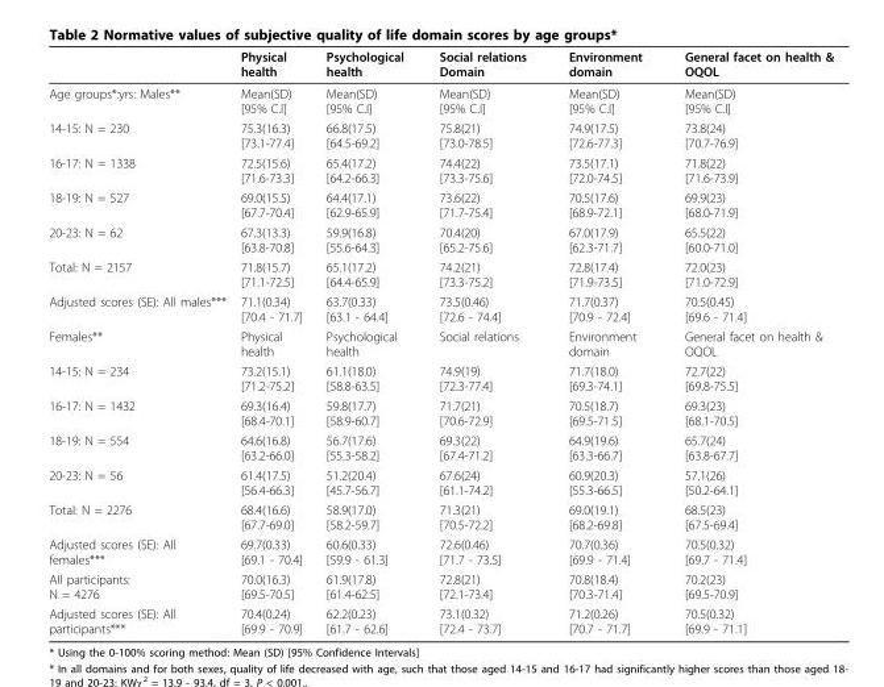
<table><thead><tr><td></td><td>Physical health</td><td>Psychological health</td><td>Social relations Domain</td><td>Environment domain</td><td>General facet on health &amp; OQOL</td></tr></thead><tbody><tr><td>Age groups*:yrs: Males**</td><td>Mean(SD) [95% C.I]</td><td>Mean(SD) [95% C.I]</td><td>Mean(SD) [95% C.I]</td><td>Mean(SD) [95% C.I]</td><td>Mean(SD) [95% C.I]</td></tr><tr><td>14-15: N = 230</td><td>75.3(16.3) [73.1-77.4]</td><td>66.8(17.5) [64.5-69.2]</td><td>75.8(21) [73.0-78.5]</td><td>74.9(17.5) [72.6-77.3]</td><td>73.8(24) [70.7-76.9]</td></tr><tr><td>16-17: N = 1338</td><td>72.5(15.6) [71.6-73.3]</td><td>65.4(17.2) [64.2-66.3]</td><td>74.4(22) [73.3-75.6]</td><td>73.5(17.1) [72.0-74.5]</td><td>71.8(22) [71.6-73.9]</td></tr><tr><td>18-19: N = 527</td><td>69.0(15.5) [67.7-70.4]</td><td>64.4(17.1) [62.9-65.9]</td><td>73.6(22) [71.7-75.4]</td><td>70.5(17.6) [68.9-72.1]</td><td>69.9(23) [68.0-71.9]</td></tr><tr><td>20-23: N = 62</td><td>67.3(13.3) [63.8-70.8]</td><td>59.9(16.8) [55.6-64.3]</td><td>70.4(20) [65.2-75.6]</td><td>67.0(17.9) [62.3-71.7]</td><td>65.5(22) [60.0-71.0]</td></tr><tr><td>Total: N = 2157</td><td>71.8(15.7) [71.1-72.5]</td><td>65.1(17.2) [64.4-65.9]</td><td>74.2(21) [73.3-75.2]</td><td>72.8(17.4) [71.9-73.5]</td><td>72.0(23) [71.0-72.9]</td></tr><tr><td>Adjusted scores (SE): All males***</td><td>71.1(0.34) [70.4 - 71.7]</td><td>63.7(0.33) [63.1 - 64.4]</td><td>73.5(0.46) [72.6 - 74.4]</td><td>71.7(0.37) [70.9 - 72.4]</td><td>70.5(0.45) [69.6 - 71.4]</td></tr><tr><td>Females**</td><td>Physical health</td><td>Psychological health</td><td>Social relations</td><td>Environment domain</td><td>General facet on health &amp; OQOL</td></tr><tr><td>14-15: N = 234</td><td>73.2(15.1) [71.2-75.2]</td><td>61.1(18.0) [58.8-63.5]</td><td>74.9(19) [72.3-77.4]</td><td>71.7(18.0) [69.3-74.1]</td><td>72.7(22) [69.8-75.5]</td></tr><tr><td>16-17: N = 1432</td><td>69.3(16.4) [68.4-70.1]</td><td>59.8(17.7) [58.9-60.7]</td><td>71.7(21) [70.6-72.9]</td><td>70.5(18.7) [69.5-71.5]</td><td>69.3(23) [68.1-70.5]</td></tr><tr><td>18-19: N = 554</td><td>64.6(16.8) [63.2-66.0]</td><td>56.7(17.6) [55.3-58.2]</td><td>69.3(22) [67.4-71.2]</td><td>64.9(19.6) [63.3-66.7]</td><td>65.7(24) [63.8-67.7]</td></tr><tr><td>20-23: N = 56</td><td>61.4(17.5) [56.4-66.3]</td><td>51.2(20.4) [45.7-56.7]</td><td>67.6(24) [61.1-74.2]</td><td>60.9(20.3) [55.3-66.5]</td><td>57.1(26) [50.2-64.1]</td></tr><tr><td>Total: N = 2276</td><td>68.4(16.6) [67.7-69.0]</td><td>58.9(17.0) [58.2-59.7]</td><td>71.3(21) [70.5-72.2]</td><td>69.0(19.1) [68.2-69.8]</td><td>68.5(23) [67.5-69.4]</td></tr><tr><td>Adjusted scores (SE): All females***</td><td>69.7(0.33) [69.1 - 70.4]</td><td>60.6(0.33) [59.9 - 61.3]</td><td>72.6(0.46) [71.7 - 73.5]</td><td>70.7(0.36) [69.9 - 71.4]</td><td>70.5(0.32) [69.7 - 71.4]</td></tr><tr><td>All participants: N = 4276</td><td>70.0(16.3) [69.5-70.5]</td><td>61.9(17.8) [61.4-62.5]</td><td>72.8(21) [72.1-73.4]</td><td>70.8(18.4) [70.3-71.4]</td><td>70.2(23) [69.5-70.9]</td></tr><tr><td>Adjusted scores (SE): All participants***</td><td>70.4(0.24) [69.9 - 70.9]</td><td>62.2(0.23) [61.7 - 62.6]</td><td>73.1(0.32) [72.4 - 73.7]</td><td>71.2(0.26) [70.7 - 71.7]</td><td>70.5(0.32) [69.9 - 71.1]</td></tr></tbody></table>